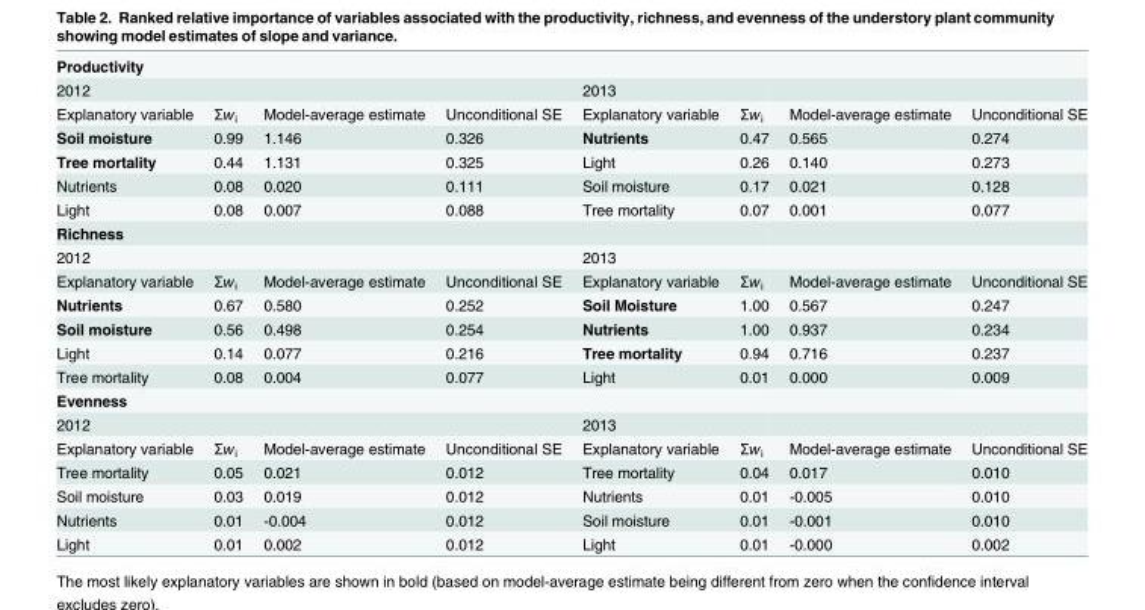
<table><tbody><tr><td colspan="8">Productivity</td></tr><tr><td>2012</td><td></td><td></td><td></td><td>2013</td><td></td><td></td><td></td></tr><tr><td>Explanatory variable</td><td>Σw<sub>i</sub></td><td>Model-average estimate</td><td>Unconditional SE</td><td>Explanatory variable</td><td>Σw<sub>i</sub></td><td>Model-average estimate</td><td>Unconditional SE</td></tr><tr><td>Soil moisture</td><td>0.99</td><td>1.146</td><td>0.326</td><td>Nutrients</td><td>0.47</td><td>0.565</td><td>0.274</td></tr><tr><td>Tree mortality</td><td>0.44</td><td>1.131</td><td>0.325</td><td>Light</td><td>0.26</td><td>0.140</td><td>0.273</td></tr><tr><td>Nutrients</td><td>0.08</td><td>0.020</td><td>0.111</td><td>Soil moisture</td><td>0.17</td><td>0.021</td><td>0.128</td></tr><tr><td>Light</td><td>0.08</td><td>0.007</td><td>0.088</td><td>Tree mortality</td><td>0.07</td><td>0.001</td><td>0.077</td></tr><tr><td colspan="8">Richness</td></tr><tr><td>2012</td><td></td><td></td><td></td><td>2013</td><td></td><td></td><td></td></tr><tr><td>Explanatory variable</td><td>Σw<sub>i</sub></td><td>Model-average estimate</td><td>Unconditional SE</td><td>Explanatory variable</td><td>Σw<sub>i</sub></td><td>Model-average estimate</td><td>Unconditional SE</td></tr><tr><td>Nutrients</td><td>0.67</td><td>0.580</td><td>0.252</td><td>Soil Moisture</td><td>1.00</td><td>0.567</td><td>0.247</td></tr><tr><td>Soil moisture</td><td>0.56</td><td>0.498</td><td>0.254</td><td>Nutrients</td><td>1.00</td><td>0.937</td><td>0.234</td></tr><tr><td>Light</td><td>0.14</td><td>0.077</td><td>0.216</td><td>Tree mortality</td><td>0.94</td><td>0.716</td><td>0.237</td></tr><tr><td>Tree mortality</td><td>0.08</td><td>0.004</td><td>0.077</td><td>Light</td><td>0.01</td><td>0.000</td><td>0.009</td></tr><tr><td colspan="8">Evenness</td></tr><tr><td>2012</td><td></td><td></td><td></td><td>2013</td><td></td><td></td><td></td></tr><tr><td>Explanatory variable</td><td>Σw<sub>i</sub></td><td>Model-average estimate</td><td>Unconditional SE</td><td>Explanatory variable</td><td>Σw<sub>i</sub></td><td>Model-average estimate</td><td>Unconditional SE</td></tr><tr><td>Tree mortality</td><td>0.05</td><td>0.021</td><td>0.012</td><td>Tree mortality</td><td>0.04</td><td>0.017</td><td>0.010</td></tr><tr><td>Soil moisture</td><td>0.03</td><td>0.019</td><td>0.012</td><td>Nutrients</td><td>0.01</td><td>-0.005</td><td>0.010</td></tr><tr><td>Nutrients</td><td>0.01</td><td>-0.004</td><td>0.012</td><td>Soil moisture</td><td>0.01</td><td>-0.001</td><td>0.010</td></tr><tr><td>Light</td><td>0.01</td><td>0.002</td><td>0.012</td><td>Light</td><td>0.01</td><td>-0.000</td><td>0.002</td></tr></tbody></table>